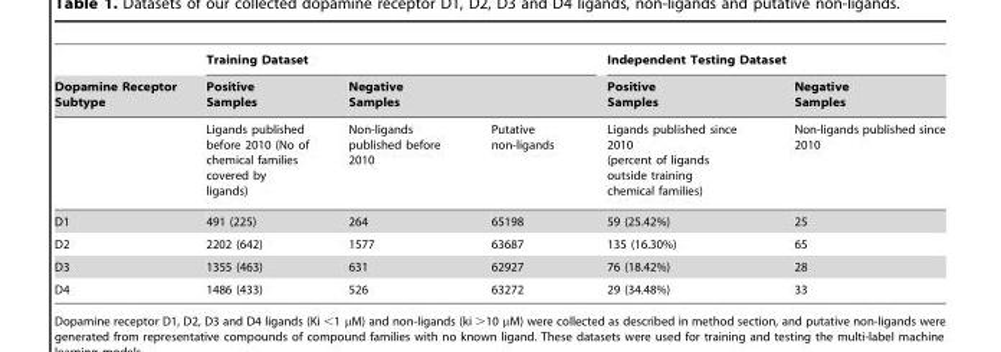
<table><thead><tr><td rowspan="3">Dopamine Receptor Subtype</td><td colspan="3">Training Dataset</td><td colspan="2">Independent Testing Dataset</td></tr><tr><td rowspan="2">Positive Samples Ligands published before 2010 (No of chemical families covered by ligands)</td><td colspan="2">Negative Samples</td><td rowspan="2">Positive Samples Ligands published since 2010 (percent of ligands outside training chemical families)</td><td rowspan="2">Negative Samples Non-ligands published since 2010</td></tr><tr><td>Non-ligands published before 2010</td><td>Putative non-ligands</td></tr></thead><tbody><tr><td>D1</td><td>491 (225)</td><td>264</td><td>65198</td><td>59 (25.42%)</td><td>25</td></tr><tr><td>D2</td><td>2202 (642)</td><td>1577</td><td>63687</td><td>135 (16.30%)</td><td>65</td></tr><tr><td>D3</td><td>1355 (463)</td><td>631</td><td>62927</td><td>76 (18.42%)</td><td>28</td></tr><tr><td>D4</td><td>1486 (433)</td><td>526</td><td>63272</td><td>29 (34.48%)</td><td>33</td></tr></tbody></table>